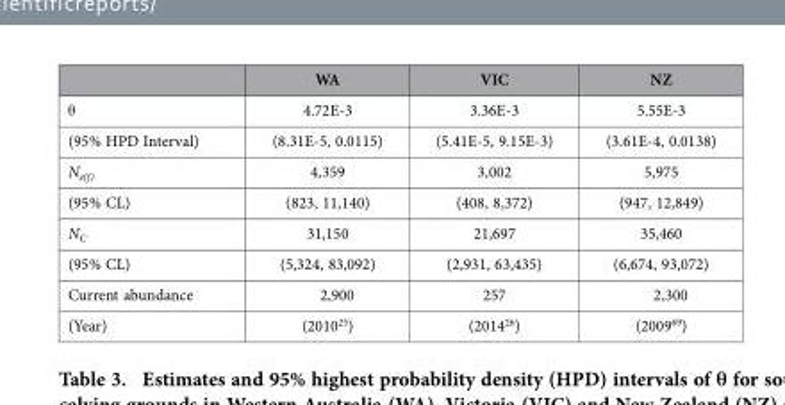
<table><thead><tr><td></td><td>WA</td><td>VIC</td><td>NZ</td></tr></thead><tbody><tr><td>θ</td><td>4.72E-3</td><td>3.36E-3</td><td>5.55E-3</td></tr><tr><td>(95% HPD Interval)</td><td>(8.31E-5, 0.0115)</td><td>(5.41E-5, 9.15E-3)</td><td>(3.61E-4, 0.0138)</td></tr><tr><td>N<sub>e(f)</sub></td><td>4,359</td><td>3,002</td><td>5,975</td></tr><tr><td>(95% CL)</td><td>(823, 11,140)</td><td>(408, 8,372)</td><td>(947, 12,849)</td></tr><tr><td>N<sub>C</sub></td><td>31,150</td><td>21,697</td><td>35,460</td></tr><tr><td>(95% CL)</td><td>(5,324, 83,092)</td><td>(2,931, 63,435)</td><td>(6,674, 93,072)</td></tr><tr><td>Current abundance</td><td>2,900</td><td>257</td><td>2,300</td></tr><tr><td>(Year)</td><td>(2010<sup>25</sup>)</td><td>(2014<sup>26</sup>)</td><td>(2009<sup>69</sup>)</td></tr></tbody></table>